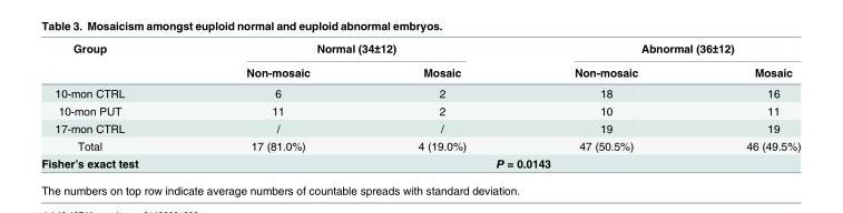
<table><thead><tr><td rowspan="2">Group</td><td colspan="2">Normal (34±12)</td><td colspan="2">Abnormal (36±12)</td></tr><tr><td>Non-mosaic</td><td>Mosaic</td><td>Non-mosaic</td><td>Mosaic</td></tr></thead><tbody><tr><td>10-mon CTRL</td><td>6</td><td>2</td><td>18</td><td>16</td></tr><tr><td>10-mon PUT</td><td>11</td><td>2</td><td>10</td><td>11</td></tr><tr><td>17-mon CTRL</td><td>/</td><td>/</td><td>19</td><td>19</td></tr><tr><td>Total</td><td>17 (81.0%)</td><td>4 (19.0%)</td><td>47 (50.5%)</td><td>46 (49.5%)</td></tr><tr><td>Fisher’s exact test</td><td colspan="4">P = 0.0143</td></tr></tbody></table>